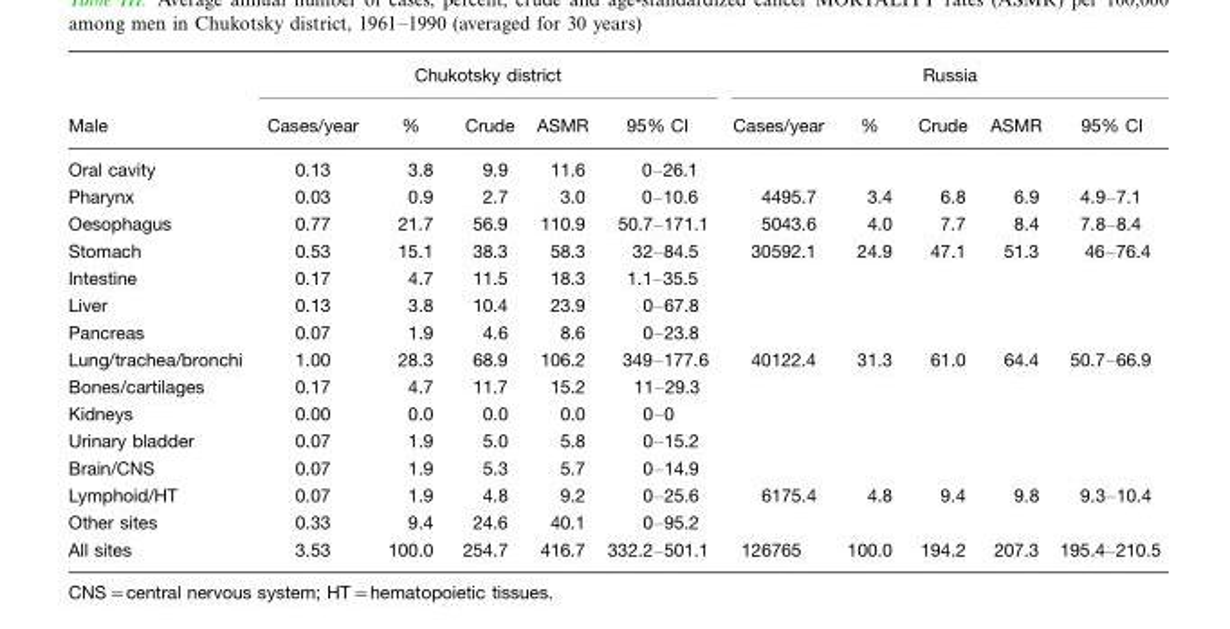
<table><thead><tr><td rowspan="2">Male</td><td colspan="5">Chukotsky district</td><td colspan="5">Russia</td></tr><tr><td>Cases/year</td><td>%</td><td>Crude</td><td>ASMR</td><td>95% CI</td><td>Cases/year</td><td>%</td><td>Crude</td><td>ASMR</td><td>95% CI</td></tr></thead><tbody><tr><td>Oral cavity</td><td>0.13</td><td>3.8</td><td>9.9</td><td>11.6</td><td>0–26.1</td><td></td><td></td><td></td><td></td><td></td></tr><tr><td>Pharynx</td><td>0.03</td><td>0.9</td><td>2.7</td><td>3.0</td><td>0–10.6</td><td>4495.7</td><td>3.4</td><td>6.8</td><td>6.9</td><td>4.9–7.1</td></tr><tr><td>Oesophagus</td><td>0.77</td><td>21.7</td><td>56.9</td><td>110.9</td><td>50.7–171.1</td><td>5043.6</td><td>4.0</td><td>7.7</td><td>8.4</td><td>7.8–8.4</td></tr><tr><td>Stomach</td><td>0.53</td><td>15.1</td><td>38.3</td><td>58.3</td><td>32–84.5</td><td>30592.1</td><td>24.9</td><td>47.1</td><td>51.3</td><td>46–76.4</td></tr><tr><td>Intestine</td><td>0.17</td><td>4.7</td><td>11.5</td><td>18.3</td><td>1.1–35.5</td><td></td><td></td><td></td><td></td><td></td></tr><tr><td>Liver</td><td>0.13</td><td>3.8</td><td>10.4</td><td>23.9</td><td>0–67.8</td><td></td><td></td><td></td><td></td><td></td></tr><tr><td>Pancreas</td><td>0.07</td><td>1.9</td><td>4.6</td><td>8.6</td><td>0–23.8</td><td></td><td></td><td></td><td></td><td></td></tr><tr><td>Lung/trachea/bronchi</td><td>1.00</td><td>28.3</td><td>68.9</td><td>106.2</td><td>349–177.6</td><td>40122.4</td><td>31.3</td><td>61.0</td><td>64.4</td><td>50.7–66.9</td></tr><tr><td>Bones/cartilages</td><td>0.17</td><td>4.7</td><td>11.7</td><td>15.2</td><td>11–29.3</td><td></td><td></td><td></td><td></td><td></td></tr><tr><td>Kidneys</td><td>0.00</td><td>0.0</td><td>0.0</td><td>0.0</td><td>0–0</td><td></td><td></td><td></td><td></td><td></td></tr><tr><td>Urinary bladder</td><td>0.07</td><td>1.9</td><td>5.0</td><td>5.8</td><td>0–15.2</td><td></td><td></td><td></td><td></td><td></td></tr><tr><td>Brain/CNS</td><td>0.07</td><td>1.9</td><td>5.3</td><td>5.7</td><td>0–14.9</td><td></td><td></td><td></td><td></td><td></td></tr><tr><td>Lymphoid/HT</td><td>0.07</td><td>1.9</td><td>4.8</td><td>9.2</td><td>0–25.6</td><td>6175.4</td><td>4.8</td><td>9.4</td><td>9.8</td><td>9.3–10.4</td></tr><tr><td>Other sites</td><td>0.33</td><td>9.4</td><td>24.6</td><td>40.1</td><td>0–95.2</td><td></td><td></td><td></td><td></td><td></td></tr><tr><td>All sites</td><td>3.53</td><td>100.0</td><td>254.7</td><td>416.7</td><td>332.2–501.1</td><td>126765</td><td>100.0</td><td>194.2</td><td>207.3</td><td>195.4–210.5</td></tr></tbody></table>